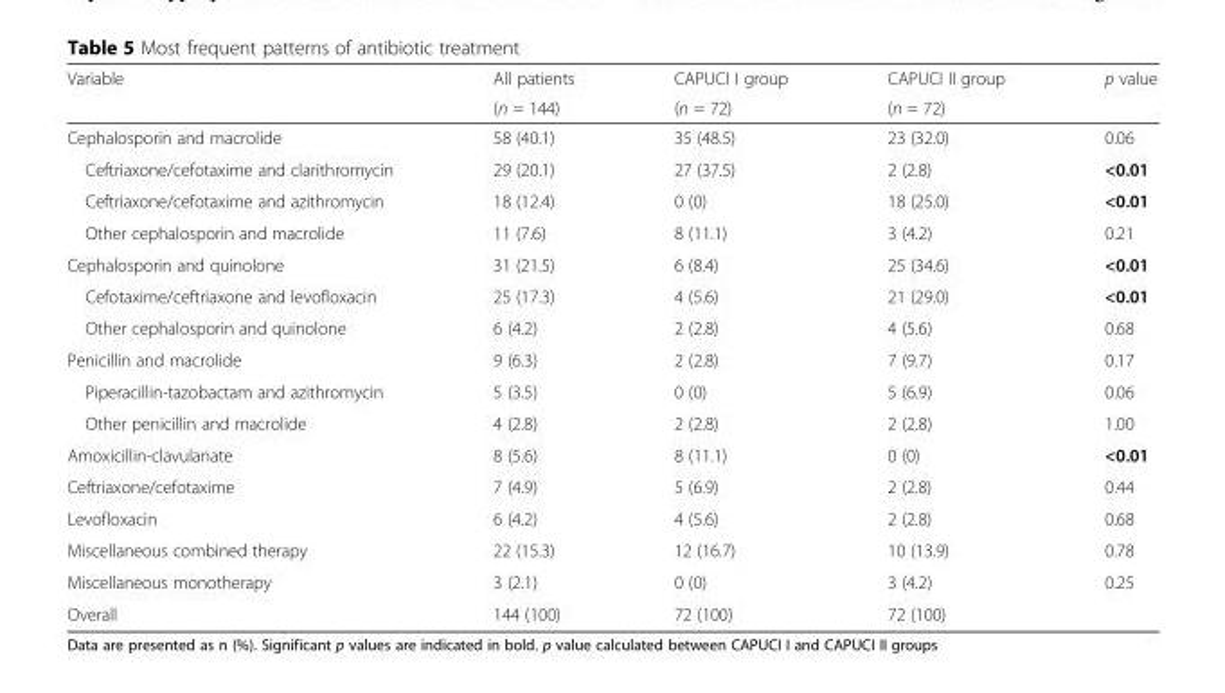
<table><thead><tr><td rowspan="2">Variable</td><td rowspan="2">All patients (n = 144)</td><td rowspan="2">CAPUCI I group (n = 72)</td><td rowspan="2">CAPUCI II group (n = 72)</td><td rowspan="2">p value</td></tr><tr></tr></thead><tbody><tr><td>Cephalosporin and macrolide</td><td>58 (40.1)</td><td>35 (48.5)</td><td>23 (32.0)</td><td>0.06</td></tr><tr><td>Ceftriaxone/cefotaxime and clarithromycin</td><td>29 (20.1)</td><td>27 (37.5)</td><td>2 (2.8)</td><td>&lt;0.01</td></tr><tr><td>Ceftriaxone/cefotaxime and azithromycin</td><td>18 (12.4)</td><td>0 (0)</td><td>18 (25.0)</td><td>&lt;0.01</td></tr><tr><td>Other cephalosporin and macrolide</td><td>11 (7.6)</td><td>8 (11.1)</td><td>3 (4.2)</td><td>0.21</td></tr><tr><td>Cephalosporin and quinolone</td><td>31 (21.5)</td><td>6 (8.4)</td><td>25 (34.6)</td><td>&lt;0.01</td></tr><tr><td>Cefotaxime/ceftriaxone and levofloxacin</td><td>25 (17.3)</td><td>4 (5.6)</td><td>21 (29.0)</td><td>&lt;0.01</td></tr><tr><td>Other cephalosporin and quinolone</td><td>6 (4.2)</td><td>2 (2.8)</td><td>4 (5.6)</td><td>0.68</td></tr><tr><td>Penicillin and macrolide</td><td>9 (6.3)</td><td>2 (2.8)</td><td>7 (9.7)</td><td>0.17</td></tr><tr><td>Piperacillin-tazobactam and azithromycin</td><td>5 (3.5)</td><td>0 (0)</td><td>5 (6.9)</td><td>0.06</td></tr><tr><td>Other penicillin and macrolide</td><td>4 (2.8)</td><td>2 (2.8)</td><td>2 (2.8)</td><td>1.00</td></tr><tr><td>Amoxicillin-clavulanate</td><td>8 (5.6)</td><td>8 (11.1)</td><td>0 (0)</td><td>&lt;0.01</td></tr><tr><td>Ceftriaxone/cefotaxime</td><td>7 (4.9)</td><td>5 (6.9)</td><td>2 (2.8)</td><td>0.44</td></tr><tr><td>Levofloxacin</td><td>6 (4.2)</td><td>4 (5.6)</td><td>2 (2.8)</td><td>0.68</td></tr><tr><td>Miscellaneous combined therapy</td><td>22 (15.3)</td><td>12 (16.7)</td><td>10 (13.9)</td><td>0.78</td></tr><tr><td>Miscellaneous monotherapy</td><td>3 (2.1)</td><td>0 (0)</td><td>3 (4.2)</td><td>0.25</td></tr><tr><td>Overall</td><td>144 (100)</td><td>72 (100)</td><td>72 (100)</td><td></td></tr></tbody></table>